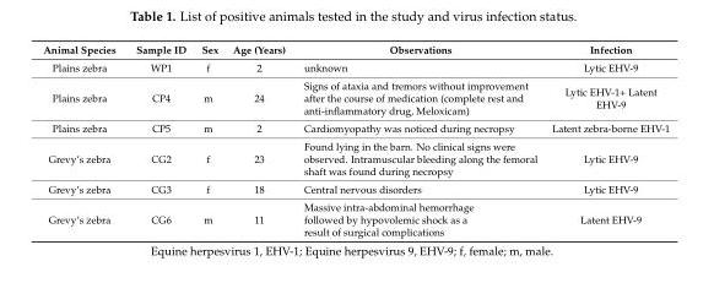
<table><thead><tr><td>Animal Species</td><td>Sample ID</td><td>Sex</td><td>Age (Years)</td><td>Observations</td><td>Infection</td></tr></thead><tbody><tr><td>Plains zebra</td><td>WP1</td><td>f</td><td>2</td><td>unknown</td><td>Lytic EHV-9</td></tr><tr><td>Plains zebra</td><td>CP4</td><td>m</td><td>24</td><td>Signs of ataxia and tremors without improvement after the course of medication (complete rest and anti-inflammatory drug, Meloxicam)</td><td>Lytic EHV-1+ Latent EHV-9</td></tr><tr><td>Plains zebra</td><td>CP5</td><td>m</td><td>2</td><td>Cardiomyopathy was noticed during necropsy</td><td>Latent zebra-borne EHV-1</td></tr><tr><td>Grevy’s zebra</td><td>CG2</td><td>f</td><td>23</td><td>Found lying in the barn. No clinical signs were observed. Intramuscular bleeding along the femoral shaft was found during necropsy</td><td>Lytic EHV-9</td></tr><tr><td>Grevy’s zebra</td><td>CG3</td><td>f</td><td>18</td><td>Central nervous disorders</td><td>Lytic EHV-9</td></tr><tr><td>Grevy’s zebra</td><td>CG6</td><td>m</td><td>11</td><td>Massive intra-abdominal hemorrhage followed by hypovolemic shock as a result of surgical complications</td><td>Latent EHV-9</td></tr></tbody></table>